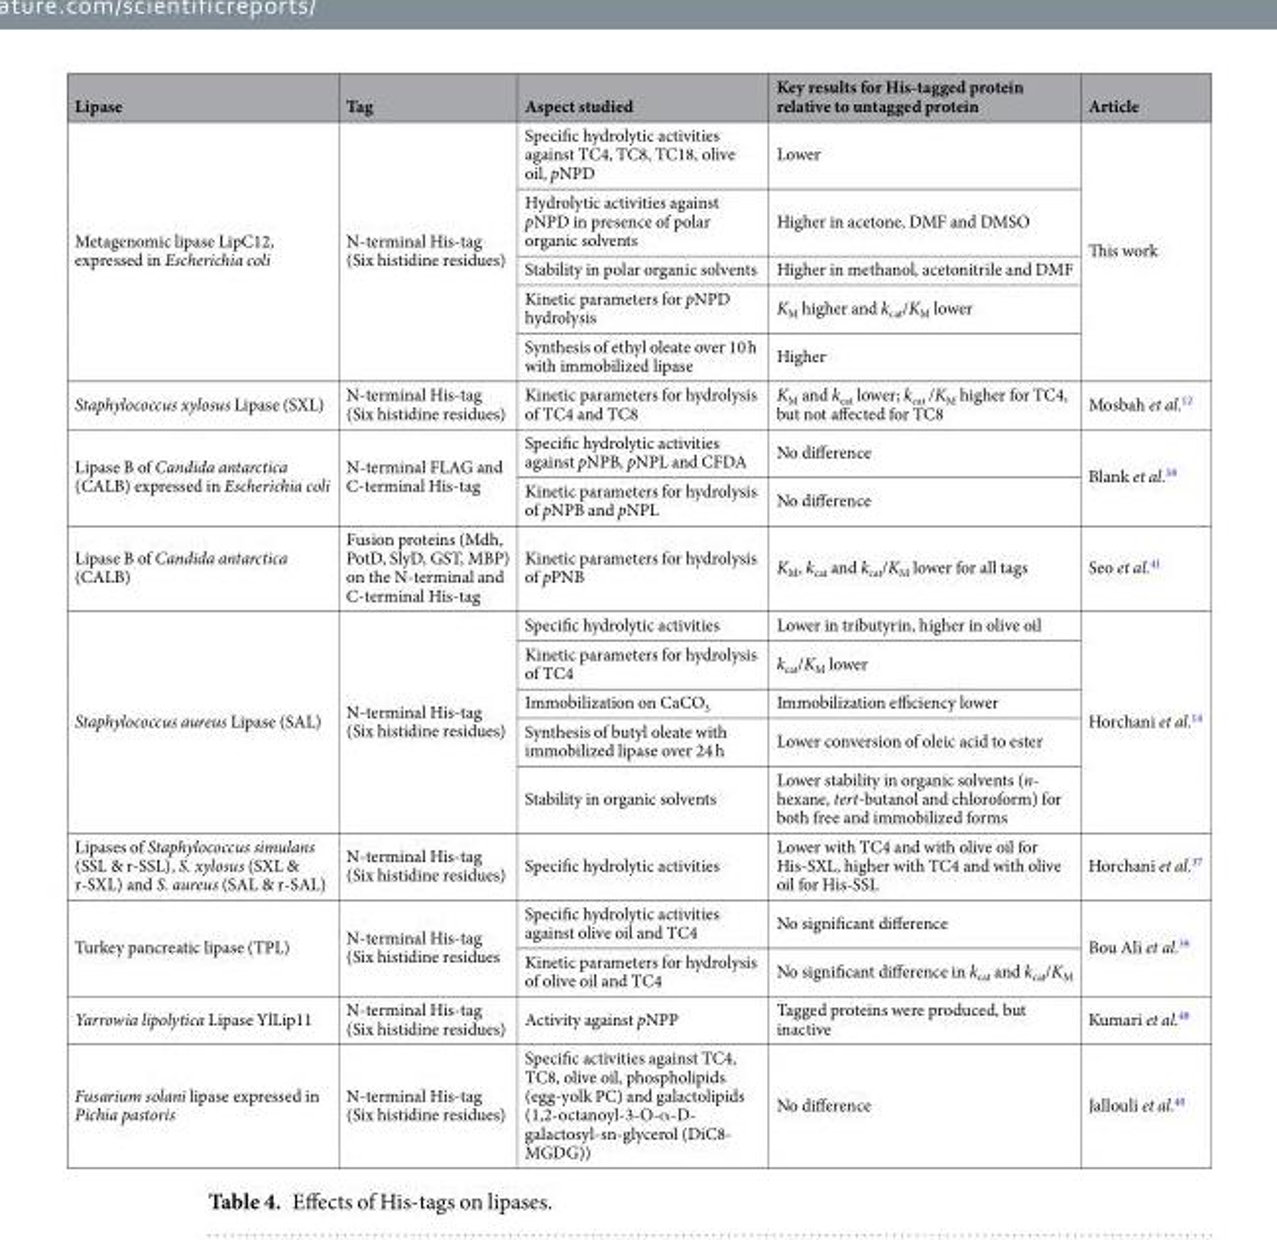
<table><thead><tr><td>Lipase</td><td>Tag</td><td>Aspect studied</td><td>Key results for His-tagged protein relative to untagged protein</td><td>Article</td></tr></thead><tbody><tr><td rowspan="5">Metagenomic lipase LipC12, expressed in Escherichia coli</td><td rowspan="5">N-terminal His-tag (Six histidine residues)</td><td>Specific hydrolytic activities against TC4, TC8, TC18, olive oil, pNPD</td><td>Lower</td><td rowspan="5">This work</td></tr><tr><td>Hydrolytic activities against pNPD in presence of polar organic solvents</td><td>Higher in acetone, DMF and DMSO</td></tr><tr><td>Stability in polar organic solvents</td><td>Higher in methanol, acetonitrile and DMF</td></tr><tr><td>Kinetic parameters for pNPD hydrolysis</td><td>K<sub>M</sub> higher and k<sub>cat</sub>/K<sub>M</sub> lower</td></tr><tr><td>Synthesis of ethyl oleate over 10 h with immobilized lipase</td><td>Higher</td></tr><tr><td>Staphylococcus xylosus Lipase (SXL)</td><td>N-terminal His-tag (Six histidine residues)</td><td>Kinetic parameters for hydrolysis of TC4 and TC8</td><td>K<sub>M</sub> and k<sub>cat</sub> lower; k<sub>cat</sub> /K<sub>M</sub> higher for TC4, but not affected for TC8</td><td>Mosbah et al.<sup>12</sup></td></tr><tr><td rowspan="2">Lipase B of Candida antarctica (CALB) expressed in Escherichia coli</td><td rowspan="2">N-terminal FLAG and C-terminal His-tag</td><td>Specific hydrolytic activities against pNPB, pNPL and CFDA</td><td>No difference</td><td rowspan="2">Blank et al.<sup>38</sup></td></tr><tr><td>Kinetic parameters for hydrolysis of pNPB and pNPL</td><td>No difference</td></tr><tr><td>Lipase B of Candida antarctica (CALB)</td><td>Fusion proteins (Mdh, PotD, SlyD, GST, MBP) on the N-terminal and C-terminal His-tag</td><td>Kinetic parameters for hydrolysis of pPNB</td><td>K<sub>M</sub>, k<sub>cat</sub> and k<sub>cat</sub>/K<sub>M</sub> lower for all tags</td><td>Seo et al.<sup>41</sup></td></tr><tr><td rowspan="5">Staphylococcus aureus Lipase (SAL)</td><td rowspan="5">N-terminal His-tag (Six histidine residues)</td><td>Specific hydrolytic activities</td><td>Lower in tributyrin, higher in olive oil</td><td rowspan="5">Horchani et al.<sup>14</sup></td></tr><tr><td>Kinetic parameters for hydrolysis of TC4</td><td>k<sub>cat</sub>/K<sub>M</sub> lower</td></tr><tr><td>Immobilization on CaCO<sub>3</sub></td><td>Immobilization efficiency lower</td></tr><tr><td>Synthesis of butyl oleate with immobilized lipase over 24 h</td><td>Lower conversion of oleic acid to ester</td></tr><tr><td>Stability in organic solvents</td><td>Lower stability in organic solvents (n- hexane, tert-butanol and chloroform) for both free and immobilized forms</td></tr><tr><td>Lipases of Staphylococcus simulans (SSL &amp; r-SSL), S. xylosus (SXL &amp; r-SXL) and S. aureus (SAL &amp; r-SAL)</td><td>N-terminal His-tag (Six histidine residues)</td><td>Specific hydrolytic activities</td><td>Lower with TC4 and with olive oil for His-SXL, higher with TC4 and with olive oil for His-SSL</td><td>Horchani et al.<sup>37</sup></td></tr><tr><td rowspan="2">Turkey pancreatic lipase (TPL)</td><td rowspan="2">N-terminal His-tag (Six histidine residues</td><td>Specific hydrolytic activities against olive oil and TC4</td><td>No significant difference</td><td rowspan="2">Bou Ali et al.<sup>39</sup></td></tr><tr><td>Kinetic parameters for hydrolysis of olive oil and TC4</td><td>No significant difference in k<sub>cat</sub> and k<sub>cat</sub>/K<sub>M</sub></td></tr><tr><td>Yarrowia lipolytica Lipase YlLip11</td><td>N-terminal His-tag (Six histidine residues)</td><td>Activity against pNPP</td><td>Tagged proteins were produced, but inactive</td><td>Kumari et al.<sup>48</sup></td></tr><tr><td>Fusarium solani lipase expressed in Pichia pastoris</td><td>N-terminal His-tag (Six histidine residues)</td><td>Specific activities against TC4, TC8, olive oil, phospholipids (egg-yolk PC) and galactolipids (1,2-octanoyl-3-O-α-D- galactosyl-sn-glycerol (DiC8- MGDG))</td><td>No difference</td><td>Jallouli et al.<sup>40</sup></td></tr></tbody></table>